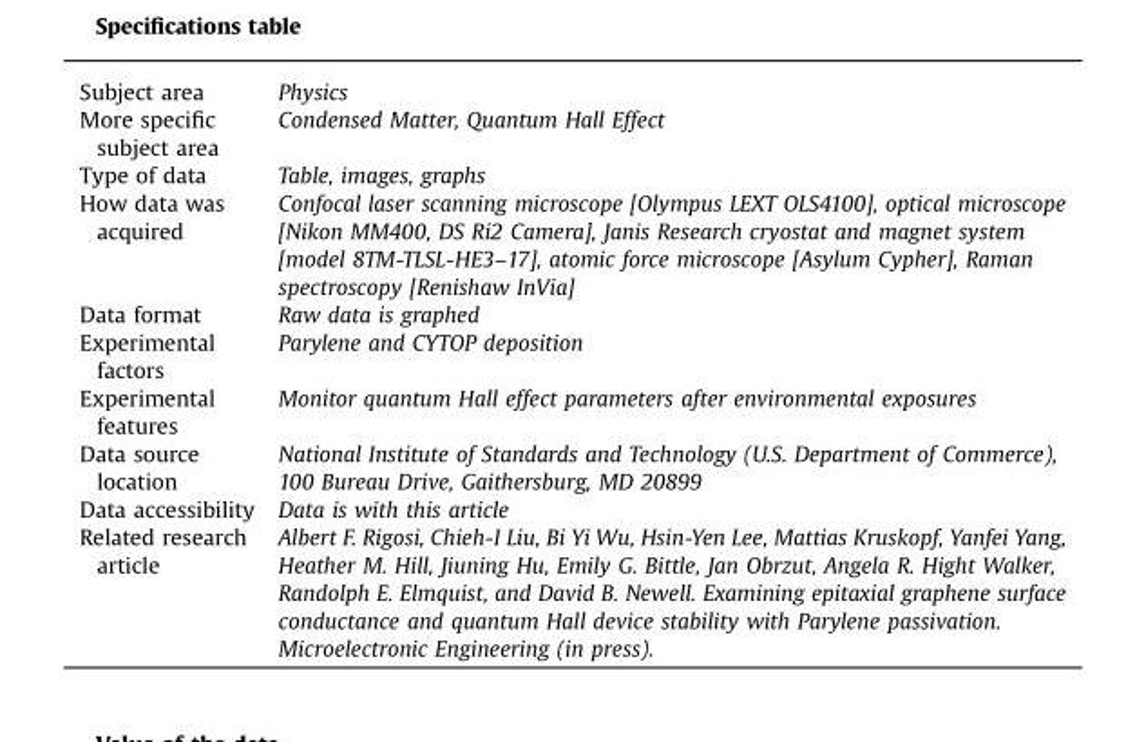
<table><tbody><tr><td>Subject area</td><td>Physics</td></tr><tr><td>More specific subject area</td><td>Condensed Matter, Quantum Hall Effect</td></tr><tr><td>Type of data</td><td>Table, images, graphs</td></tr><tr><td>How data was acquired</td><td>Confocal laser scanning microscope [Olympus LEXT OLS4100], optical microscope [Nikon MM400, DS Ri2 Camera], Janis Research cryostat and magnet system [model 8TM-TLSL-HE3–17], atomic force microscope [Asylum Cypher], Raman spectroscopy [Renishaw InVia]</td></tr><tr><td>Data format</td><td>Raw data is graphed</td></tr><tr><td>Experimental factors</td><td>Parylene and CYTOP deposition</td></tr><tr><td>Experimental features</td><td>Monitor quantum Hall effect parameters after environmental exposures</td></tr><tr><td>Data source location</td><td>National Institute of Standards and Technology (U.S. Department of Commerce), 100 Bureau Drive, Gaithersburg, MD 20899</td></tr><tr><td>Data accessibility</td><td>Data is with this article</td></tr><tr><td>Related research article</td><td>Albert F. Rigosi, Chieh-I Liu, Bi Yi Wu, Hsin-Yen Lee, Mattias Kruskopf, Yanfei Yang, Heather M. Hill, Jiuning Hu, Emily G. Bittle, Jan Obrzut, Angela R. Hight Walker, Randolph E. Elmquist, and David B. Newell. Examining epitaxial graphene surface conductance and quantum Hall device stability with Parylene passivation. Microelectronic Engineering (in press).</td></tr></tbody></table>